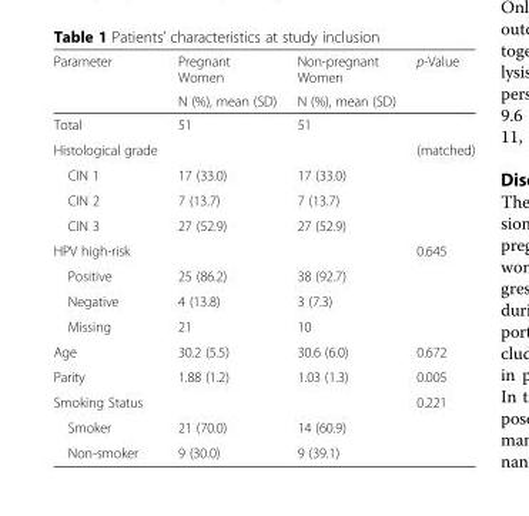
<table><thead><tr><td rowspan="2">Parameter</td><td rowspan="2">Pregnant Women N (%), mean (SD)</td><td rowspan="2">Non-pregnant Women N (%), mean (SD)</td><td rowspan="2">p-Value</td></tr><tr></tr></thead><tbody><tr><td>Total</td><td>51</td><td>51</td><td></td></tr><tr><td>Histological grade</td><td></td><td></td><td>(matched)</td></tr><tr><td>CIN 1</td><td>17 (33.0)</td><td>17 (33.0)</td><td></td></tr><tr><td>CIN 2</td><td>7 (13.7)</td><td>7 (13.7)</td><td></td></tr><tr><td>CIN 3</td><td>27 (52.9)</td><td>27 (52.9)</td><td></td></tr><tr><td>HPV high-risk</td><td></td><td></td><td>0.645</td></tr><tr><td>Positive</td><td>25 (86.2)</td><td>38 (92.7)</td><td></td></tr><tr><td>Negative</td><td>4 (13.8)</td><td>3 (7.3)</td><td></td></tr><tr><td>Missing</td><td>21</td><td>10</td><td></td></tr><tr><td>Age</td><td>30.2 (5.5)</td><td>30.6 (6.0)</td><td>0.672</td></tr><tr><td>Parity</td><td>1.88 (1.2)</td><td>1.03 (1.3)</td><td>0.005</td></tr><tr><td>Smoking Status</td><td></td><td></td><td>0.221</td></tr><tr><td>Smoker</td><td>21 (70.0)</td><td>14 (60.9)</td><td></td></tr><tr><td>Non-smoker</td><td>9 (30.0)</td><td>9 (39.1)</td><td></td></tr></tbody></table>